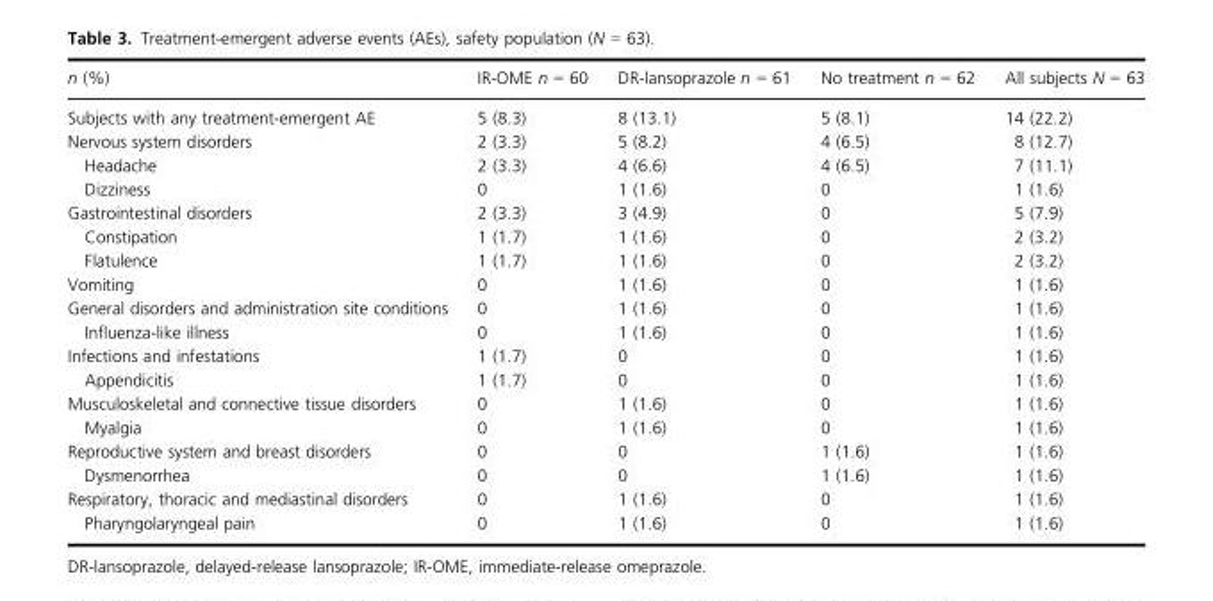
<table><thead><tr><td>n (%)</td><td>IR-OME n = 60</td><td>DR-lansoprazole n = 61</td><td>No treatment n = 62</td><td>All subjects N = 63</td></tr></thead><tbody><tr><td>Subjects with any treatment-emergent AE</td><td>5 (8.3)</td><td>8 (13.1)</td><td>5 (8.1)</td><td>14 (22.2)</td></tr><tr><td>Nervous system disorders</td><td>2 (3.3)</td><td>5 (8.2)</td><td>4 (6.5)</td><td>8 (12.7)</td></tr><tr><td>Headache</td><td>2 (3.3)</td><td>4 (6.6)</td><td>4 (6.5)</td><td>7 (11.1)</td></tr><tr><td>Dizziness</td><td>0</td><td>1 (1.6)</td><td>0</td><td>1 (1.6)</td></tr><tr><td>Gastrointestinal disorders</td><td>2 (3.3)</td><td>3 (4.9)</td><td>0</td><td>5 (7.9)</td></tr><tr><td>Constipation</td><td>1 (1.7)</td><td>1 (1.6)</td><td>0</td><td>2 (3.2)</td></tr><tr><td>Flatulence</td><td>1 (1.7)</td><td>1 (1.6)</td><td>0</td><td>2 (3.2)</td></tr><tr><td>Vomiting</td><td>0</td><td>1 (1.6)</td><td>0</td><td>1 (1.6)</td></tr><tr><td>General disorders and administration site conditions</td><td>0</td><td>1 (1.6)</td><td>0</td><td>1 (1.6)</td></tr><tr><td>Influenza-like illness</td><td>0</td><td>1 (1.6)</td><td>0</td><td>1 (1.6)</td></tr><tr><td>Infections and infestations</td><td>1 (1.7)</td><td>0</td><td>0</td><td>1 (1.6)</td></tr><tr><td>Appendicitis</td><td>1 (1.7)</td><td>0</td><td>0</td><td>1 (1.6)</td></tr><tr><td>Musculoskeletal and connective tissue disorders</td><td>0</td><td>1 (1.6)</td><td>0</td><td>1 (1.6)</td></tr><tr><td>Myalgia</td><td>0</td><td>1 (1.6)</td><td>0</td><td>1 (1.6)</td></tr><tr><td>Reproductive system and breast disorders</td><td>0</td><td>0</td><td>1 (1.6)</td><td>1 (1.6)</td></tr><tr><td>Dysmenorrhea</td><td>0</td><td>0</td><td>1 (1.6)</td><td>1 (1.6)</td></tr><tr><td>Respiratory, thoracic and mediastinal disorders</td><td>0</td><td>1 (1.6)</td><td>0</td><td>1 (1.6)</td></tr><tr><td>Pharyngolaryngeal pain</td><td>0</td><td>1 (1.6)</td><td>0</td><td>1 (1.6)</td></tr></tbody></table>